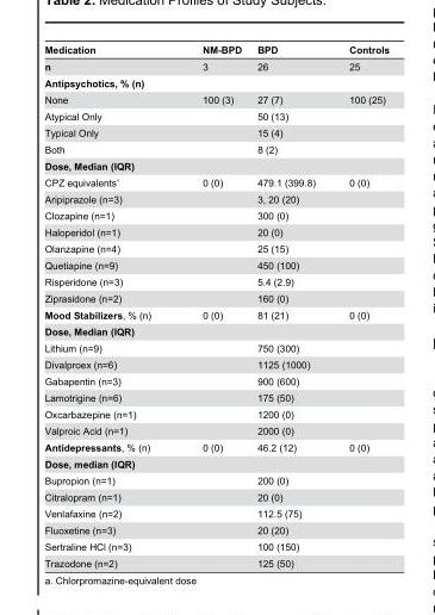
<table><thead><tr><td>Medication</td><td>NM-BPD</td><td>BPD</td><td>Controls</td></tr></thead><tbody><tr><td>n</td><td>3</td><td>26</td><td>25</td></tr><tr><td colspan="4">Antipsychotics, % (n)</td></tr><tr><td>None</td><td>100 (3)</td><td>27 (7)</td><td>100 (25)</td></tr><tr><td>Atypical Only</td><td></td><td>50 (13)</td><td></td></tr><tr><td>Typical Only</td><td></td><td>15 (4)</td><td></td></tr><tr><td>Both</td><td></td><td>8 (2)</td><td></td></tr><tr><td colspan="4">Dose, Median (IQR)</td></tr><tr><td>CPZ equivalents <sup>a</sup></td><td>0 (0)</td><td>479.1 (399.8)</td><td>0 (0)</td></tr><tr><td>Aripiprazole (n=3)</td><td></td><td>3, 20 (20)</td><td></td></tr><tr><td>Clozapine (n=1)</td><td></td><td>300 (0)</td><td></td></tr><tr><td>Haloperidol (n=1)</td><td></td><td>20 (0)</td><td></td></tr><tr><td>Olanzapine (n=4)</td><td></td><td>25 (15)</td><td></td></tr><tr><td>Quetiapine (n=9)</td><td></td><td>450 (100)</td><td></td></tr><tr><td>Risperidone (n=3)</td><td></td><td>5.4 (2.9)</td><td></td></tr><tr><td>Ziprasidone (n=2)</td><td></td><td>160 (0)</td><td></td></tr><tr><td>Mood Stabilizers, % (n)</td><td>0 (0)</td><td>81 (21)</td><td>0 (0)</td></tr><tr><td colspan="4">Dose, Median (IQR)</td></tr><tr><td>Lithium (n=9)</td><td></td><td>750 (300)</td><td></td></tr><tr><td>Divalproex (n=6)</td><td></td><td>1125 (1000)</td><td></td></tr><tr><td>Gabapentin (n=3)</td><td></td><td>900 (600)</td><td></td></tr><tr><td>Lamotrigine (n=6)</td><td></td><td>175 (50)</td><td></td></tr><tr><td>Oxcarbazepine (n=1)</td><td></td><td>1200 (0)</td><td></td></tr><tr><td>Valproic Acid (n=1)</td><td></td><td>2000 (0)</td><td></td></tr><tr><td>Antidepressants, % (n)</td><td>0 (0)</td><td>46.2 (12)</td><td>0 (0)</td></tr><tr><td colspan="4">Dose, median (IQR)</td></tr><tr><td>Bupropion (n=1)</td><td></td><td>200 (0)</td><td></td></tr><tr><td>Citralopram (n=1)</td><td></td><td>20 (0)</td><td></td></tr><tr><td>Venlafaxine (n=2)</td><td></td><td>112.5 (75)</td><td></td></tr><tr><td>Fluoxetine (n=3)</td><td></td><td>20 (20)</td><td></td></tr><tr><td>Sertraline HCl (n=3)</td><td></td><td>100 (150)</td><td></td></tr><tr><td>Trazodone (n=2)</td><td></td><td>125 (50)</td><td></td></tr></tbody></table>